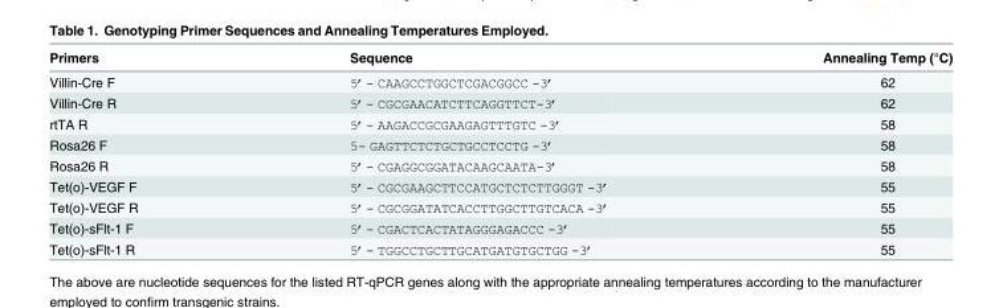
<table><thead><tr><td>Primers</td><td>Sequence</td><td>Annealing Temp (°C)</td></tr></thead><tbody><tr><td>Villin-Cre F</td><td>5’- CAAGCCTGGCTCGACGGCC -3’</td><td>62</td></tr><tr><td>Villin-Cre R</td><td>5’- CGCGAACATCTTCAGGTTCT-3’</td><td>62</td></tr><tr><td>rtTA R</td><td>5’- AAGACCGCGAAGAGTTTGTC -3’</td><td>58</td></tr><tr><td>Rosa26 F</td><td>5- GAGTTCTCTGCTGCCTCCTG -3’</td><td>58</td></tr><tr><td>Rosa26 R</td><td>5’- CGAGGCGGATACAAGCAATA-3’</td><td>58</td></tr><tr><td>Tet(o)-VEGF F</td><td>5’- CGCGAAGCTTCCATGCTCTCTTGGGT -3’</td><td>55</td></tr><tr><td>Tet(o)-VEGF R</td><td>5’- CGCGGATATCACCTTGGCTTGTCACA -3’</td><td>55</td></tr><tr><td>Tet(o)-sFlt-1 F</td><td>5’- CGACTCACTATAGGGAGACCC -3’</td><td>55</td></tr><tr><td>Tet(o)-sFlt-1 R</td><td>5’- TGGCCTGCTTGCATGATGTGCTGG -3’</td><td>55</td></tr></tbody></table>